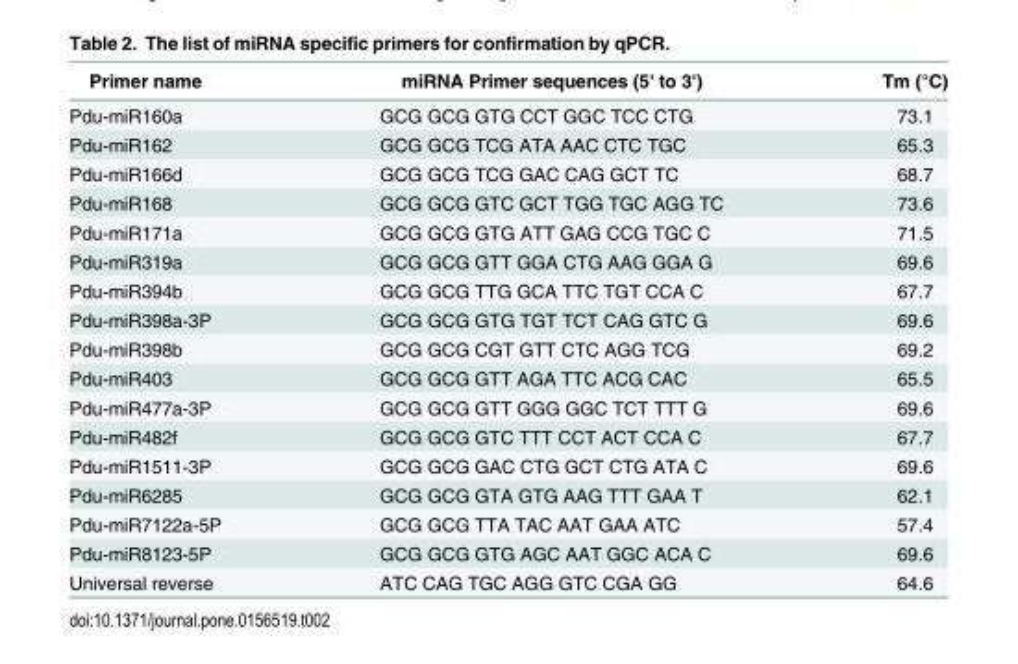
<table><thead><tr><td>Primer name</td><td>miRNA Primer sequences (5&#x27; to 3&#x27;)</td><td>Tm (°C)</td></tr></thead><tbody><tr><td>Pdu-miR160a</td><td>GCG GCG GTG CCT GGC TCC CTG</td><td>73.1</td></tr><tr><td>Pdu-miR162</td><td>GCG GCG TCG ATA AAC CTC TGC</td><td>65.3</td></tr><tr><td>Pdu-miR166d</td><td>GCG GCG TCG GAC CAG GCT TC</td><td>68.7</td></tr><tr><td>Pdu-miR168</td><td>GCG GCG GTC GCT TGG TGC AGG TC</td><td>73.6</td></tr><tr><td>Pdu-miR171a</td><td>GCG GCG GTG ATT GAG CCG TGC C</td><td>71.5</td></tr><tr><td>Pdu-miR319a</td><td>GCG GCG GTT GGA CTG AAG GGA G</td><td>69.6</td></tr><tr><td>Pdu-miR394b</td><td>GCG GCG TTG GCA TTC TGT CCA C</td><td>67.7</td></tr><tr><td>Pdu-miR398a-3P</td><td>GCG GCG GTG TGT TCT CAG GTC G</td><td>69.6</td></tr><tr><td>Pdu-miR398b</td><td>GCG GCG CGT GTT CTC AGG TCG</td><td>69.2</td></tr><tr><td>Pdu-miR403</td><td>GCG GCG GTT AGA TTC ACG CAC</td><td>65.5</td></tr><tr><td>Pdu-miR477a-3P</td><td>GCG GCG GTT GGG GGC TCT TTT G</td><td>69.6</td></tr><tr><td>Pdu-miR482f</td><td>GCG GCG GTC TTT CCT ACT CCA C</td><td>67.7</td></tr><tr><td>Pdu-miR1511-3P</td><td>GCG GCG GAC CTG GCT CTG ATA C</td><td>69.6</td></tr><tr><td>Pdu-miR6285</td><td>GCG GCG GTA GTG AAG TTT GAA T</td><td>62.1</td></tr><tr><td>Pdu-miR7122a-5P</td><td>GCG GCG TTA TAC AAT GAA ATC</td><td>57.4</td></tr><tr><td>Pdu-miR8123-5P</td><td>GCG GCG GTG AGC AAT GGC ACA C</td><td>69.6</td></tr><tr><td>Universal reverse</td><td>ATC CAG TGC AGG GTC CGA GG</td><td>64.6</td></tr></tbody></table>